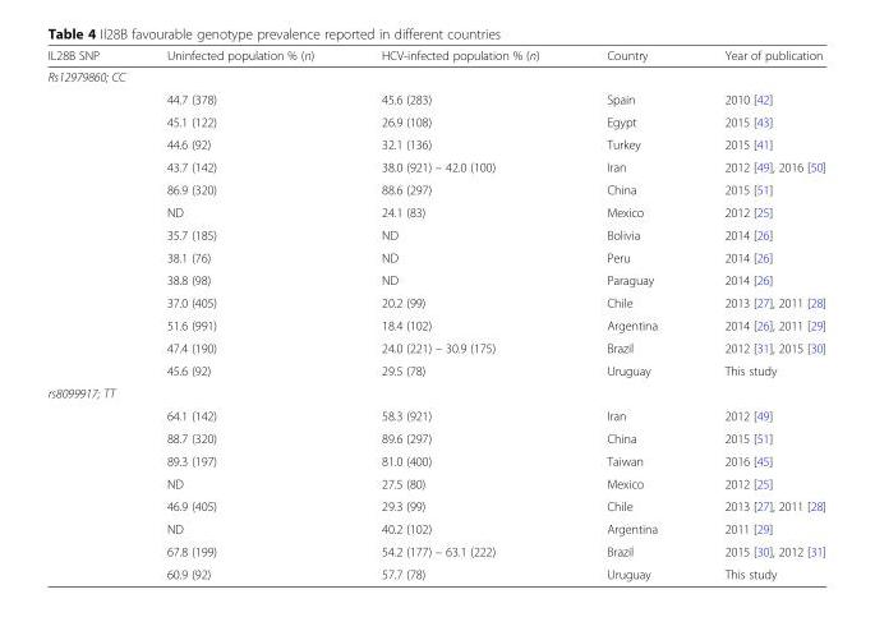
<table><thead><tr><td>IL28B SNP</td><td>Uninfected population % (n)</td><td>HCV-infected population % (n)</td><td>Country</td><td>Year of publication</td></tr></thead><tbody><tr><td colspan="5">Rs12979860; CC</td></tr><tr><td></td><td>44.7 (378)</td><td>45.6 (283)</td><td>Spain</td><td>2010 [42]</td></tr><tr><td></td><td>45.1 (122)</td><td>26.9 (108)</td><td>Egypt</td><td>2015 [43]</td></tr><tr><td></td><td>44.6 (92)</td><td>32.1 (136)</td><td>Turkey</td><td>2015 [41]</td></tr><tr><td></td><td>43.7 (142)</td><td>38.0 (921) – 42.0 (100)</td><td>Iran</td><td>2012 [49], 2016 [50]</td></tr><tr><td></td><td>86.9 (320)</td><td>88.6 (297)</td><td>China</td><td>2015 [51]</td></tr><tr><td></td><td>ND</td><td>24.1 (83)</td><td>Mexico</td><td>2012 [25]</td></tr><tr><td></td><td>35.7 (185)</td><td>ND</td><td>Bolivia</td><td>2014 [26]</td></tr><tr><td></td><td>38.1 (76)</td><td>ND</td><td>Peru</td><td>2014 [26]</td></tr><tr><td></td><td>38.8 (98)</td><td>ND</td><td>Paraguay</td><td>2014 [26]</td></tr><tr><td></td><td>37.0 (405)</td><td>20.2 (99)</td><td>Chile</td><td>2013 [27], 2011 [28]</td></tr><tr><td></td><td>51.6 (991)</td><td>18.4 (102)</td><td>Argentina</td><td>2014 [26], 2011 [29]</td></tr><tr><td></td><td>47.4 (190)</td><td>24.0 (221) – 30.9 (175)</td><td>Brazil</td><td>2012 [31], 2015 [30]</td></tr><tr><td></td><td>45.6 (92)</td><td>29.5 (78)</td><td>Uruguay</td><td>This study</td></tr><tr><td colspan="5">rs8099917; TT</td></tr><tr><td></td><td>64.1 (142)</td><td>58.3 (921)</td><td>Iran</td><td>2012 [49]</td></tr><tr><td></td><td>88.7 (320)</td><td>89.6 (297)</td><td>China</td><td>2015 [51]</td></tr><tr><td></td><td>89.3 (197)</td><td>81.0 (400)</td><td>Taiwan</td><td>2016 [45]</td></tr><tr><td></td><td>ND</td><td>27.5 (80)</td><td>Mexico</td><td>2012 [25]</td></tr><tr><td></td><td>46.9 (405)</td><td>29.3 (99)</td><td>Chile</td><td>2013 [27], 2011 [28]</td></tr><tr><td></td><td>ND</td><td>40.2 (102)</td><td>Argentina</td><td>2011 [29]</td></tr><tr><td></td><td>67.8 (199)</td><td>54.2 (177) – 63.1 (222)</td><td>Brazil</td><td>2015 [30], 2012 [31]</td></tr><tr><td></td><td>60.9 (92)</td><td>57.7 (78)</td><td>Uruguay</td><td>This study</td></tr></tbody></table>